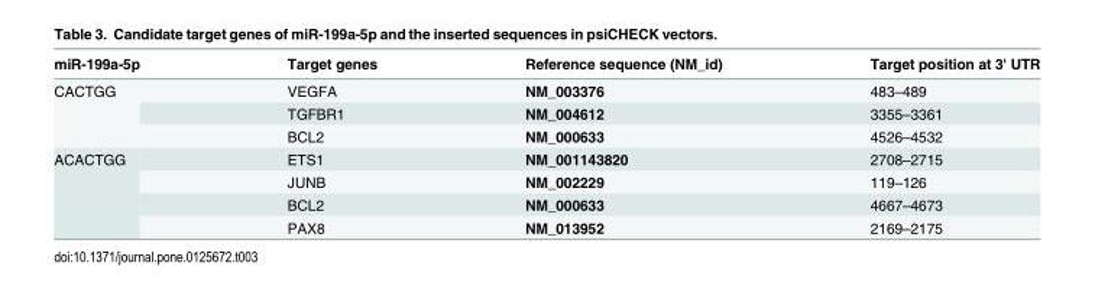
<table><thead><tr><td>miR-199a-5p</td><td>Target genes</td><td>Reference sequence (NM_id)</td><td>Target position at 3&#x27; UTR</td></tr></thead><tbody><tr><td rowspan="3">CACTGG</td><td>VEGFA</td><td>NM_003376</td><td>483–489</td></tr><tr><td>TGFBR1</td><td>NM_004612</td><td>3355–3361</td></tr><tr><td>BCL2</td><td>NM_000633</td><td>4526–4532</td></tr><tr><td rowspan="4">ACACTGG</td><td>ETS1</td><td>NM_001143820</td><td>2708–2715</td></tr><tr><td>JUNB</td><td>NM_002229</td><td>119–126</td></tr><tr><td>BCL2</td><td>NM_000633</td><td>4667–4673</td></tr><tr><td>PAX8</td><td>NM_013952</td><td>2169–2175</td></tr></tbody></table>